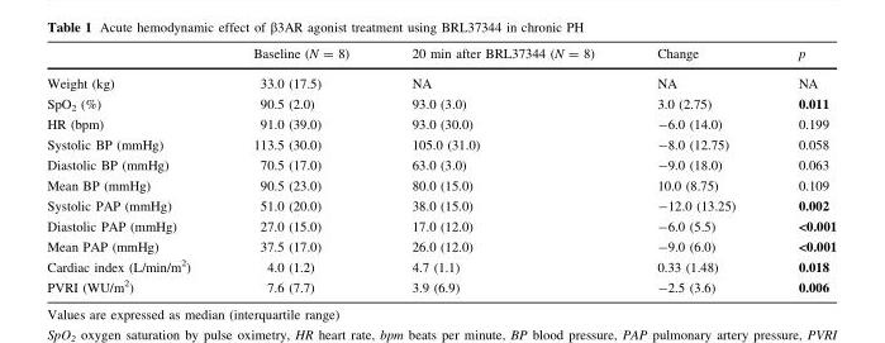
<table><thead><tr><td></td><td>Baseline (N = 8)</td><td>20 min after BRL37344 (N = 8)</td><td>Change</td><td>p</td></tr></thead><tbody><tr><td>Weight (kg)</td><td>33.0 (17.5)</td><td>NA</td><td>NA</td><td>NA</td></tr><tr><td>SpO<sub>2</sub> (%)</td><td>90.5 (2.0)</td><td>93.0 (3.0)</td><td>3.0 (2.75)</td><td>0.011</td></tr><tr><td>HR (bpm)</td><td>91.0 (39.0)</td><td>93.0 (30.0)</td><td>-6.0 (14.0)</td><td>0.199</td></tr><tr><td>Systolic BP (mmHg)</td><td>113.5 (30.0)</td><td>105.0 (31.0)</td><td>-8.0 (12.75)</td><td>0.058</td></tr><tr><td>Diastolic BP (mmHg)</td><td>70.5 (17.0)</td><td>63.0 (3.0)</td><td>-9.0 (18.0)</td><td>0.063</td></tr><tr><td>Mean BP (mmHg)</td><td>90.5 (23.0)</td><td>80.0 (15.0)</td><td>10.0 (8.75)</td><td>0.109</td></tr><tr><td>Systolic PAP (mmHg)</td><td>51.0 (20.0)</td><td>38.0 (15.0)</td><td>-12.0 (13.25)</td><td>0.002</td></tr><tr><td>Diastolic PAP (mmHg)</td><td>27.0 (15.0)</td><td>17.0 (12.0)</td><td>-6.0 (5.5)</td><td>&lt;0.001</td></tr><tr><td>Mean PAP (mmHg)</td><td>37.5 (17.0)</td><td>26.0 (12.0)</td><td>-9.0 (6.0)</td><td>&lt;0.001</td></tr><tr><td>Cardiac index (L/min/m<sup>2</sup>)</td><td>4.0 (1.2)</td><td>4.7 (1.1)</td><td>0.33 (1.48)</td><td>0.018</td></tr><tr><td>PVRI (WU/m<sup>2</sup>)</td><td>7.6 (7.7)</td><td>3.9 (6.9)</td><td>-2.5 (3.6)</td><td>0.006</td></tr></tbody></table>